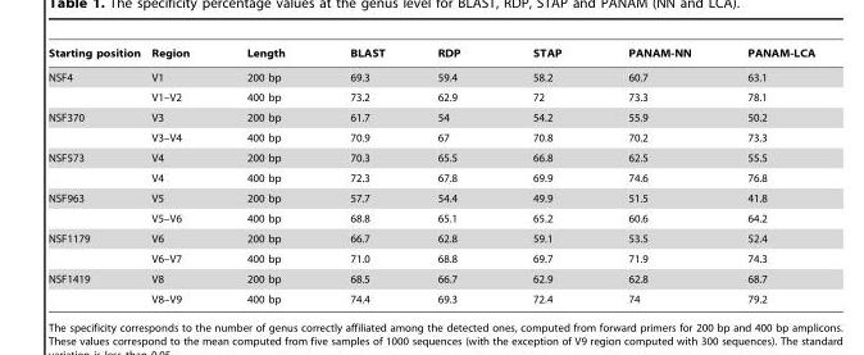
<table><thead><tr><td>Starting position</td><td>Region</td><td>Length</td><td>BLAST</td><td>RDP</td><td>STAP</td><td>PANAM-NN</td><td>PANAM-LCA</td></tr></thead><tbody><tr><td rowspan="2">NSF4</td><td>V1</td><td>200 bp</td><td>69.3</td><td>59.4</td><td>58.2</td><td>60.7</td><td>63.1</td></tr><tr><td>V1–V2</td><td>400 bp</td><td>73.2</td><td>62.9</td><td>72</td><td>73.3</td><td>78.1</td></tr><tr><td rowspan="2">NSF370</td><td>V3</td><td>200 bp</td><td>61.7</td><td>54</td><td>54.2</td><td>55.9</td><td>50.2</td></tr><tr><td>V3–V4</td><td>400 bp</td><td>70.9</td><td>67</td><td>70.8</td><td>70.2</td><td>73.3</td></tr><tr><td rowspan="2">NSF573</td><td>V4</td><td>200 bp</td><td>70.3</td><td>65.5</td><td>66.8</td><td>62.5</td><td>55.5</td></tr><tr><td>V4</td><td>400 bp</td><td>72.3</td><td>67.8</td><td>69.9</td><td>74.6</td><td>76.8</td></tr><tr><td rowspan="2">NSF963</td><td>V5</td><td>200 bp</td><td>57.7</td><td>54.4</td><td>49.9</td><td>51.5</td><td>41.8</td></tr><tr><td>V5–V6</td><td>400 bp</td><td>68.8</td><td>65.1</td><td>65.2</td><td>60.6</td><td>64.2</td></tr><tr><td rowspan="2">NSF1179</td><td>V6</td><td>200 bp</td><td>66.7</td><td>62.8</td><td>59.1</td><td>53.5</td><td>52.4</td></tr><tr><td>V6–V7</td><td>400 bp</td><td>71.0</td><td>68.8</td><td>69.7</td><td>71.9</td><td>74.3</td></tr><tr><td rowspan="2">NSF1419</td><td>V8</td><td>200 bp</td><td>68.5</td><td>66.7</td><td>62.9</td><td>62.8</td><td>68.7</td></tr><tr><td>V8–V9</td><td>400 bp</td><td>74.4</td><td>69.3</td><td>72.4</td><td>74</td><td>79.2</td></tr></tbody></table>